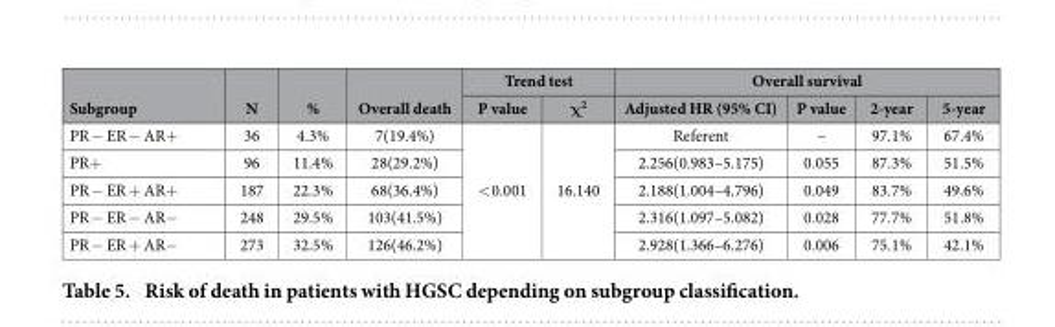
<table><thead><tr><td rowspan="2">Subgroup</td><td rowspan="2">N</td><td rowspan="2">%</td><td rowspan="2">Overall death</td><td colspan="2">Trend test</td><td colspan="4">Overall survival</td></tr><tr><td>P value</td><td>χ<sup>2</sup></td><td>Adjusted HR (95% CI)</td><td>P value</td><td>2-year</td><td>5-year</td></tr></thead><tbody><tr><td>PR − ER − AR+</td><td>36</td><td>4.3%</td><td>7(19.4%)</td><td rowspan="5">&lt; 0.001</td><td rowspan="5">16.140</td><td>Referent</td><td>–</td><td>97.1%</td><td>67.4%</td></tr><tr><td>PR+</td><td>96</td><td>11.4%</td><td>28(29.2%)</td><td>2.256(0.983–5.175)</td><td>0.055</td><td>87.3%</td><td>51.5%</td></tr><tr><td>PR − ER + AR+</td><td>187</td><td>22.3%</td><td>68(36.4%)</td><td>2.188(1.004–4.796)</td><td>0.049</td><td>83.7%</td><td>49.6%</td></tr><tr><td>PR − ER − AR−</td><td>248</td><td>29.5%</td><td>103(41.5%)</td><td>2.316(1.097–5.082)</td><td>0.028</td><td>77.7%</td><td>51.8%</td></tr><tr><td>PR − ER + AR−</td><td>273</td><td>32.5%</td><td>126(46.2%)</td><td>2.928(1.366–6.276)</td><td>0.006</td><td>75.1%</td><td>42.1%</td></tr></tbody></table>